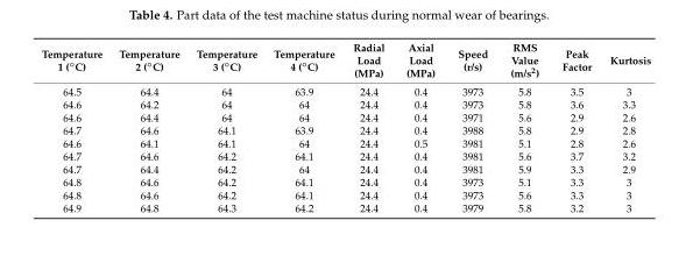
<table><thead><tr><td>Temperature 1 (◦C)</td><td>Temperature 2 (◦C)</td><td>Temperature 3 (◦C)</td><td>Temperature 4 (◦C)</td><td>Radial Load (MPa)</td><td>Axial Load (MPa)</td><td>Speed (r/s)</td><td>RMS Value (m/s<sup>2</sup>)</td><td>Peak Factor</td><td>Kurtosis</td></tr></thead><tbody><tr><td>64.5</td><td>64.4</td><td>64</td><td>63.9</td><td>24.4</td><td>0.4</td><td>3973</td><td>5.8</td><td>3.5</td><td>3</td></tr><tr><td>64.6</td><td>64.2</td><td>64</td><td>64</td><td>24.4</td><td>0.4</td><td>3973</td><td>5.8</td><td>3.6</td><td>3.3</td></tr><tr><td>64.6</td><td>64.4</td><td>64</td><td>64</td><td>24.4</td><td>0.4</td><td>3971</td><td>5.6</td><td>2.9</td><td>2.6</td></tr><tr><td>64.7</td><td>64.6</td><td>64.1</td><td>63.9</td><td>24.4</td><td>0.4</td><td>3988</td><td>5.8</td><td>2.9</td><td>2.8</td></tr><tr><td>64.6</td><td>64.1</td><td>64.1</td><td>64</td><td>24.4</td><td>0.5</td><td>3981</td><td>5.1</td><td>2.8</td><td>2.6</td></tr><tr><td>64.7</td><td>64.6</td><td>64.2</td><td>64.1</td><td>24.4</td><td>0.4</td><td>3981</td><td>5.6</td><td>3.7</td><td>3.2</td></tr><tr><td>64.7</td><td>64.4</td><td>64.2</td><td>64</td><td>24.4</td><td>0.4</td><td>3981</td><td>5.9</td><td>3.3</td><td>2.9</td></tr><tr><td>64.8</td><td>64.6</td><td>64.2</td><td>64.1</td><td>24.4</td><td>0.4</td><td>3973</td><td>5.1</td><td>3.3</td><td>3</td></tr><tr><td>64.8</td><td>64.6</td><td>64.2</td><td>64.1</td><td>24.4</td><td>0.4</td><td>3973</td><td>5.6</td><td>3.3</td><td>3</td></tr><tr><td>64.9</td><td>64.8</td><td>64.3</td><td>64.2</td><td>24.4</td><td>0.4</td><td>3979</td><td>5.8</td><td>3.2</td><td>3</td></tr></tbody></table>